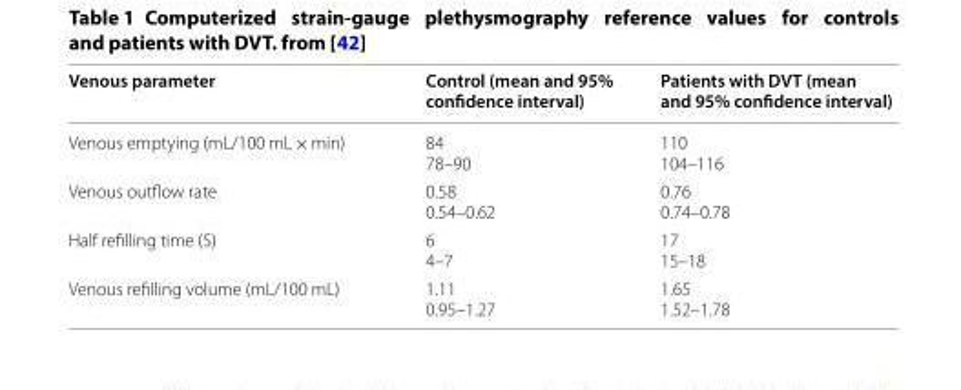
<table><thead><tr><td>Venous parameter</td><td>Control (mean and 95% confidence interval)</td><td>Patients with DVT (mean and 95% confidence interval)</td></tr></thead><tbody><tr><td>Venous emptying (mL/100 mL × min)</td><td>84 78–90</td><td>110 104–116</td></tr><tr><td>Venous outflow rate</td><td>0.58 0.54–0.62</td><td>0.76 0.74–0.78</td></tr><tr><td>Half refilling time (S)</td><td>6 4–7</td><td>17 15–18</td></tr><tr><td>Venous refilling volume (mL/100 mL)</td><td>1.11 0.95–1.27</td><td>1.65 1.52–1.78</td></tr></tbody></table>